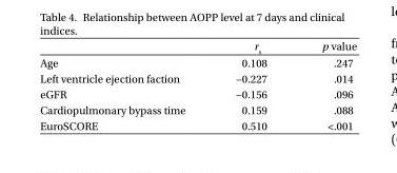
<table><thead><tr><td></td><td>r<sub>s</sub></td><td>p value</td></tr></thead><tbody><tr><td>Age</td><td>0.108</td><td>.247</td></tr><tr><td>Left ventricle ejection faction</td><td>−0.227</td><td>.014</td></tr><tr><td>eGFR</td><td>−0.156</td><td>.096</td></tr><tr><td>Cardiopulmonary bypass time</td><td>0.159</td><td>.088</td></tr><tr><td>EuroSCORE</td><td>0.510</td><td>&lt;.001</td></tr></tbody></table>